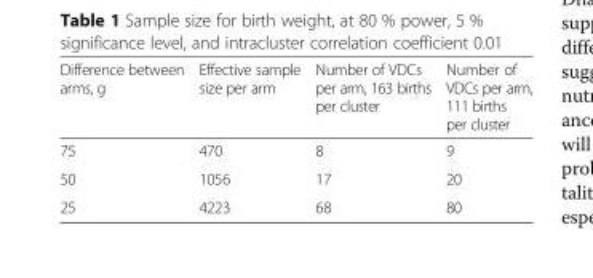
<table><thead><tr><td>Difference between arms, g</td><td>Effective sample size per arm</td><td>Number of VDCs per arm, 163 births per cluster</td><td>Number of VDCs per arm, 111 births per cluster</td></tr></thead><tbody><tr><td>75</td><td>470</td><td>8</td><td>9</td></tr><tr><td>50</td><td>1056</td><td>17</td><td>20</td></tr><tr><td>25</td><td>4223</td><td>68</td><td>80</td></tr></tbody></table>